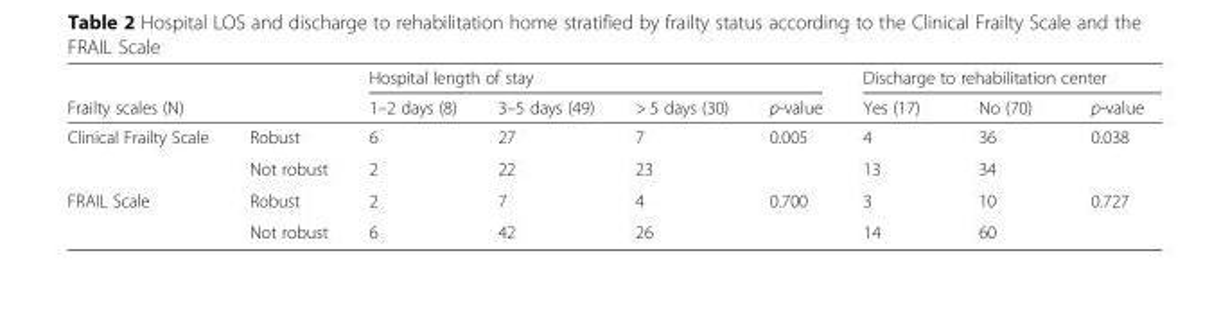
<table><thead><tr><td rowspan="2">Frailty scales (N)</td><td rowspan="2"></td><td colspan="4">Hospital length of stay</td><td colspan="3">Discharge to rehabilitation center</td></tr><tr><td>1–2 days (8)</td><td>3–5 days (49)</td><td>&gt; 5 days (30)</td><td>p-value</td><td>Yes (17)</td><td>No (70)</td><td>p-value</td></tr></thead><tbody><tr><td rowspan="2">Clinical Frailty Scale</td><td>Robust</td><td>6</td><td>27</td><td>7</td><td rowspan="2">0.005</td><td>4</td><td>36</td><td rowspan="2">0.038</td></tr><tr><td>Not robust</td><td>2</td><td>22</td><td>23</td><td>13</td><td>34</td></tr><tr><td rowspan="2">FRAIL Scale</td><td>Robust</td><td>2</td><td>7</td><td>4</td><td rowspan="2">0.700</td><td>3</td><td>10</td><td rowspan="2">0.727</td></tr><tr><td>Not robust</td><td>6</td><td>42</td><td>26</td><td>14</td><td>60</td></tr></tbody></table>